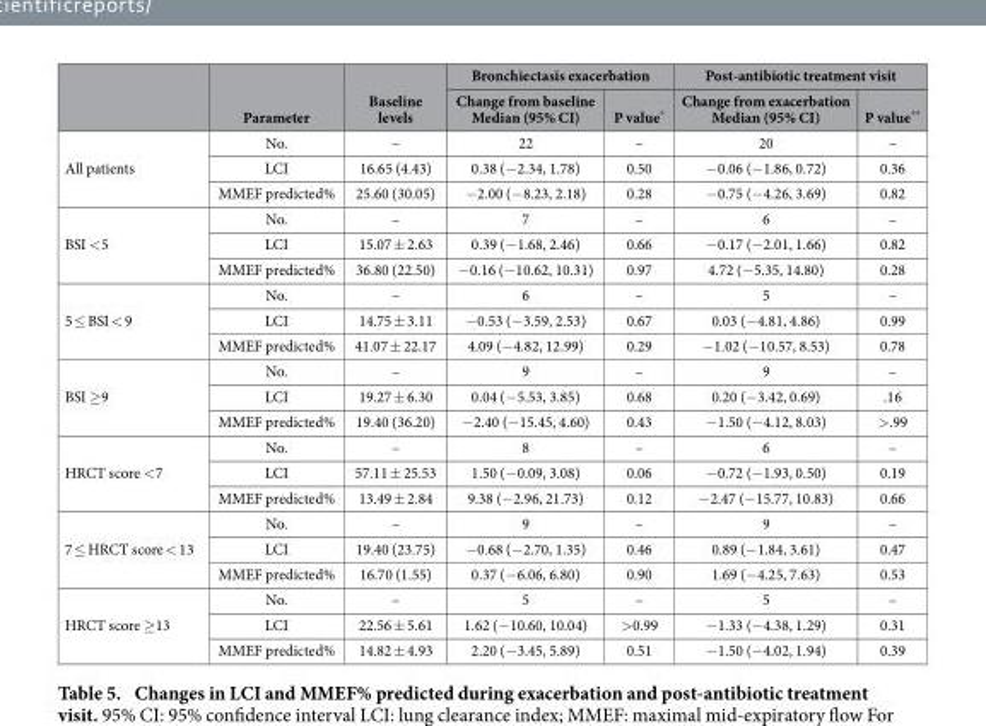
<table><thead><tr><td rowspan="2"></td><td rowspan="2">Parameter</td><td rowspan="2">Baseline levels</td><td colspan="2">Bronchiectasis exacerbation</td><td colspan="2">Post-antibiotic treatment visit</td></tr><tr><td>Change from baseline Median (95% CI)</td><td>P value*</td><td>Change from exacerbation Median (95% CI)</td><td>P value**</td></tr></thead><tbody><tr><td rowspan="3">All patients</td><td>No.</td><td>–</td><td>22</td><td>–</td><td>20</td><td>–</td></tr><tr><td>LCI</td><td>16.65 (4.43)</td><td>0.38 (− 2.34, 1.78)</td><td>0.50</td><td>− 0.06 (− 1.86, 0.72)</td><td>0.36</td></tr><tr><td>MMEF predicted%</td><td>25.60 (30.05)</td><td>− 2.00 (− 8.23, 2.18)</td><td>0.28</td><td>− 0.75 (− 4.26, 3.69)</td><td>0.82</td></tr><tr><td rowspan="3">BSI &lt; 5</td><td>No.</td><td>–</td><td>7</td><td>–</td><td>6</td><td>–</td></tr><tr><td>LCI</td><td>15.07 ± 2.63</td><td>0.39 (− 1.68, 2.46)</td><td>0.66</td><td>− 0.17 (− 2.01, 1.66)</td><td>0.82</td></tr><tr><td>MMEF predicted%</td><td>36.80 (22.50)</td><td>− 0.16 (− 10.62, 10.31)</td><td>0.97</td><td>4.72 (− 5.35, 14.80)</td><td>0.28</td></tr><tr><td rowspan="3">5 ≤ BSI &lt; 9</td><td>No.</td><td>–</td><td>6</td><td>–</td><td>5</td><td>–</td></tr><tr><td>LCI</td><td>14.75 ± 3.11</td><td>− 0.53 (− 3.59, 2.53)</td><td>0.67</td><td>0.03 (− 4.81, 4.86)</td><td>0.99</td></tr><tr><td>MMEF predicted%</td><td>41.07 ± 22.17</td><td>4.09 (− 4.82, 12.99)</td><td>0.29</td><td>− 1.02 (− 10.57, 8.53)</td><td>0.78</td></tr><tr><td rowspan="3">BSI ≥ 9</td><td>No.</td><td>–</td><td>9</td><td>–</td><td>9</td><td>–</td></tr><tr><td>LCI</td><td>19.27 ± 6.30</td><td>0.04 (− 5.53, 3.85)</td><td>0.68</td><td>0.20 (− 3.42, 0.69)</td><td>.16</td></tr><tr><td>MMEF predicted%</td><td>19.40 (36.20)</td><td>− 2.40 (− 15.45, 4.60)</td><td>0.43</td><td>− 1.50 (− 4.12, 8.03)</td><td>&gt; .99</td></tr><tr><td rowspan="3">HRCT score &lt; 7</td><td>No.</td><td>–</td><td>8</td><td>–</td><td>6</td><td>–</td></tr><tr><td>LCI</td><td>57.11 ± 25.53</td><td>1.50 (− 0.09, 3.08)</td><td>0.06</td><td>− 0.72 (− 1.93, 0.50)</td><td>0.19</td></tr><tr><td>MMEF predicted%</td><td>13.49 ± 2.84</td><td>9.38 (− 2.96, 21.73)</td><td>0.12</td><td>− 2.47 (− 15.77, 10.83)</td><td>0.66</td></tr><tr><td rowspan="3">7 ≤ HRCT score &lt; 13</td><td>No.</td><td>–</td><td>9</td><td>–</td><td>9</td><td>–</td></tr><tr><td>LCI</td><td>19.40 (23.75)</td><td>− 0.68 (− 2.70, 1.35)</td><td>0.46</td><td>0.89 (− 1.84, 3.61)</td><td>0.47</td></tr><tr><td>MMEF predicted%</td><td>16.70 (1.55)</td><td>0.37 (− 6.06, 6.80)</td><td>0.90</td><td>1.69 (− 4.25, 7.63)</td><td>0.53</td></tr><tr><td rowspan="3">HRCT score ≥ 13</td><td>No.</td><td>–</td><td>5</td><td>–</td><td>5</td><td>–</td></tr><tr><td>LCI</td><td>22.56 ± 5.61</td><td>1.62 (− 10.60, 10.04)</td><td>&gt; 0.99</td><td>− 1.33 (− 4.38, 1.29)</td><td>0.31</td></tr><tr><td>MMEF predicted%</td><td>14.82 ± 4.93</td><td>2.20 (− 3.45, 5.89)</td><td>0.51</td><td>− 1.50 (− 4.02, 1.94)</td><td>0.39</td></tr></tbody></table>